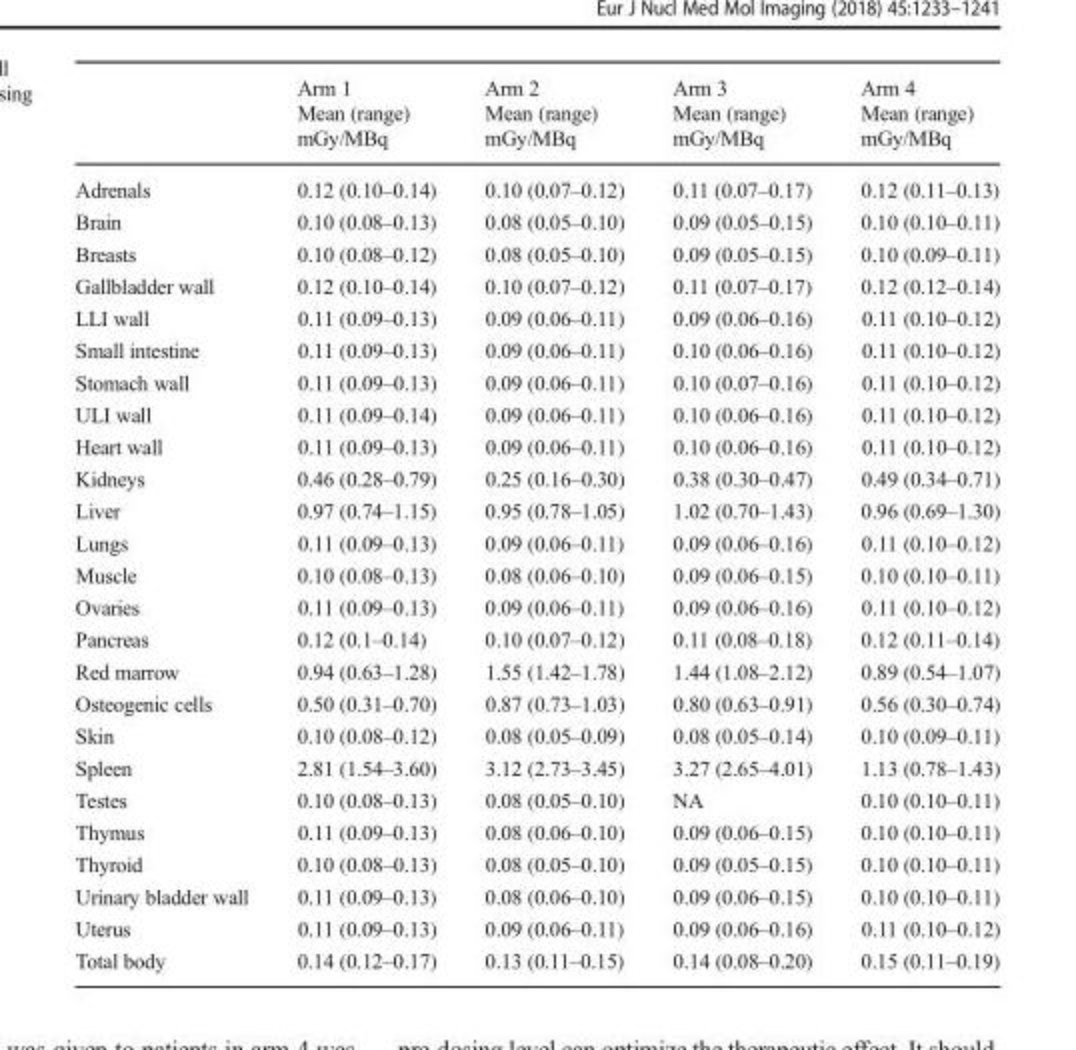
<table><thead><tr><td rowspan="2"></td><td rowspan="2">Arm 1 Mean (range) mGy/MBq</td><td rowspan="2">Arm 2 Mean (range) mGy/MBq</td><td rowspan="2">Arm 3 Mean (range) mGy/MBq</td><td rowspan="2">Arm 4 Mean (range) mGy/MBq</td></tr><tr></tr></thead><tbody><tr><td>Adrenals</td><td>0.12 (0.10–0.14)</td><td>0.10 (0.07–0.12)</td><td>0.11 (0.07–0.17)</td><td>0.12 (0.11–0.13)</td></tr><tr><td>Brain</td><td>0.10 (0.08–0.13)</td><td>0.08 (0.05–0.10)</td><td>0.09 (0.05–0.15)</td><td>0.10 (0.10–0.11)</td></tr><tr><td>Breasts</td><td>0.10 (0.08–0.12)</td><td>0.08 (0.05–0.10)</td><td>0.09 (0.05–0.15)</td><td>0.10 (0.09–0.11)</td></tr><tr><td>Gallbladder wall</td><td>0.12 (0.10–0.14)</td><td>0.10 (0.07–0.12)</td><td>0.11 (0.07–0.17)</td><td>0.12 (0.12–0.14)</td></tr><tr><td>LLI wall</td><td>0.11 (0.09–0.13)</td><td>0.09 (0.06–0.11)</td><td>0.09 (0.06–0.16)</td><td>0.11 (0.10–0.12)</td></tr><tr><td>Small intestine</td><td>0.11 (0.09–0.13)</td><td>0.09 (0.06–0.11)</td><td>0.10 (0.06–0.16)</td><td>0.11 (0.10–0.12)</td></tr><tr><td>Stomach wall</td><td>0.11 (0.09–0.13)</td><td>0.09 (0.06–0.11)</td><td>0.10 (0.07–0.16)</td><td>0.11 (0.10–0.12)</td></tr><tr><td>ULI wall</td><td>0.11 (0.09–0.14)</td><td>0.09 (0.06–0.11)</td><td>0.10 (0.06–0.16)</td><td>0.11 (0.10–0.12)</td></tr><tr><td>Heart wall</td><td>0.11 (0.09–0.13)</td><td>0.09 (0.06–0.11)</td><td>0.10 (0.06–0.16)</td><td>0.11 (0.10–0.12)</td></tr><tr><td>Kidneys</td><td>0.46 (0.28–0.79)</td><td>0.25 (0.16–0.30)</td><td>0.38 (0.30–0.47)</td><td>0.49 (0.34–0.71)</td></tr><tr><td>Liver</td><td>0.97 (0.74–1.15)</td><td>0.95 (0.78–1.05)</td><td>1.02 (0.70–1.43)</td><td>0.96 (0.69–1.30)</td></tr><tr><td>Lungs</td><td>0.11 (0.09–0.13)</td><td>0.09 (0.06–0.11)</td><td>0.09 (0.06–0.16)</td><td>0.11 (0.10–0.12)</td></tr><tr><td>Muscle</td><td>0.10 (0.08–0.13)</td><td>0.08 (0.06–0.10)</td><td>0.09 (0.06–0.15)</td><td>0.10 (0.10–0.11)</td></tr><tr><td>Ovaries</td><td>0.11 (0.09–0.13)</td><td>0.09 (0.06–0.11)</td><td>0.09 (0.06–0.16)</td><td>0.11 (0.10–0.12)</td></tr><tr><td>Pancreas</td><td>0.12 (0.1–0.14)</td><td>0.10 (0.07–0.12)</td><td>0.11 (0.08–0.18)</td><td>0.12 (0.11–0.14)</td></tr><tr><td>Red marrow</td><td>0.94 (0.63–1.28)</td><td>1.55 (1.42–1.78)</td><td>1.44 (1.08–2.12)</td><td>0.89 (0.54–1.07)</td></tr><tr><td>Osteogenic cells</td><td>0.50 (0.31–0.70)</td><td>0.87 (0.73–1.03)</td><td>0.80 (0.63–0.91)</td><td>0.56 (0.30–0.74)</td></tr><tr><td>Skin</td><td>0.10 (0.08–0.12)</td><td>0.08 (0.05–0.09)</td><td>0.08 (0.05–0.14)</td><td>0.10 (0.09–0.11)</td></tr><tr><td>Spleen</td><td>2.81 (1.54–3.60)</td><td>3.12 (2.73–3.45)</td><td>3.27 (2.65–4.01)</td><td>1.13 (0.78–1.43)</td></tr><tr><td>Testes</td><td>0.10 (0.08–0.13)</td><td>0.08 (0.05–0.10)</td><td>NA</td><td>0.10 (0.10–0.11)</td></tr><tr><td>Thymus</td><td>0.11 (0.09–0.13)</td><td>0.08 (0.06–0.10)</td><td>0.09 (0.06–0.15)</td><td>0.10 (0.10–0.11)</td></tr><tr><td>Thyroid</td><td>0.10 (0.08–0.13)</td><td>0.08 (0.05–0.10)</td><td>0.09 (0.05–0.15)</td><td>0.10 (0.10–0.11)</td></tr><tr><td>Urinary bladder wall</td><td>0.11 (0.09–0.13)</td><td>0.08 (0.06–0.10)</td><td>0.09 (0.06–0.15)</td><td>0.10 (0.10–0.11)</td></tr><tr><td>Uterus</td><td>0.11 (0.09–0.13)</td><td>0.09 (0.06–0.11)</td><td>0.09 (0.06–0.16)</td><td>0.11 (0.10–0.12)</td></tr><tr><td>Total body</td><td>0.14 (0.12–0.17)</td><td>0.13 (0.11–0.15)</td><td>0.14 (0.08–0.20)</td><td>0.15 (0.11–0.19)</td></tr></tbody></table>